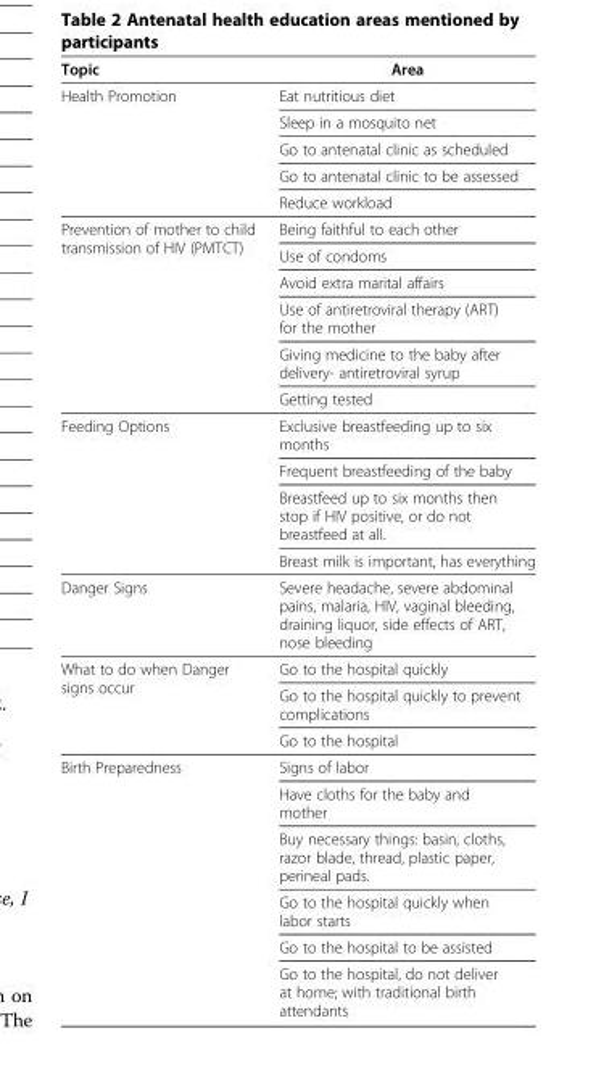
<table><thead><tr><td>Topic</td><td>Area</td></tr></thead><tbody><tr><td rowspan="5">Health Promotion</td><td>Eat nutritious diet</td></tr><tr><td>Sleep in a mosquito net</td></tr><tr><td>Go to antenatal clinic as scheduled</td></tr><tr><td>Go to antenatal clinic to be assessed</td></tr><tr><td>Reduce workload</td></tr><tr><td rowspan="6">Prevention of mother to child transmission of HIV (PMTCT)</td><td>Being faithful to each other</td></tr><tr><td>Use of condoms</td></tr><tr><td>Avoid extra marital affairs</td></tr><tr><td>Use of antiretroviral therapy (ART) for the mother</td></tr><tr><td>Giving medicine to the baby after delivery- antiretroviral syrup</td></tr><tr><td>Getting tested</td></tr><tr><td rowspan="4">Feeding Options</td><td>Exclusive breastfeeding up to six months</td></tr><tr><td>Frequent breastfeeding of the baby</td></tr><tr><td>Breastfeed up to six months then stop if HIV positive, or do not breastfeed at all.</td></tr><tr><td>Breast milk is important, has everything</td></tr><tr><td>Danger Signs</td><td>Severe headache, severe abdominal pains, malaria, HIV, vaginal bleeding, draining liquor, side effects of ART, nose bleeding</td></tr><tr><td rowspan="3">What to do when Danger signs occur</td><td>Go to the hospital quickly</td></tr><tr><td>Go to the hospital quickly to prevent complications</td></tr><tr><td>Go to the hospital</td></tr><tr><td rowspan="6">Birth Preparedness</td><td>Signs of labor</td></tr><tr><td>Have cloths for the baby and mother</td></tr><tr><td>Buy necessary things: basin, cloths, razor blade, thread, plastic paper, perineal pads.</td></tr><tr><td>Go to the hospital quickly when labor starts</td></tr><tr><td>Go to the hospital to be assisted</td></tr><tr><td>Go to the hospital, do not deliver at home; with traditional birth attendants</td></tr></tbody></table>